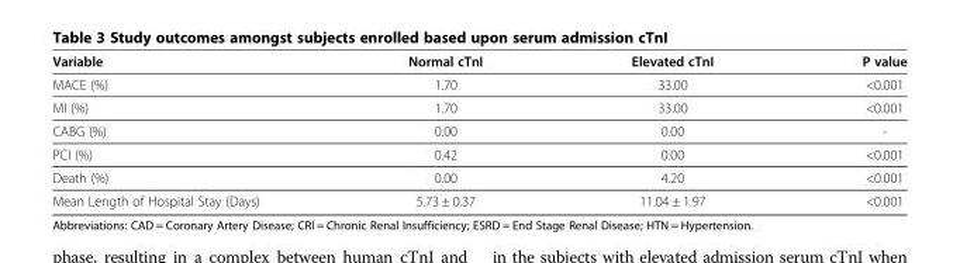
<table><thead><tr><td>Variable</td><td>Normal cTnI</td><td>Elevated cTnI</td><td>P value</td></tr></thead><tbody><tr><td>MACE (%)</td><td>1.70</td><td>33.00</td><td>&lt;0.001</td></tr><tr><td>MI (%)</td><td>1.70</td><td>33.00</td><td>&lt;0.001</td></tr><tr><td>CABG (%)</td><td>0.00</td><td>0.00</td><td>-</td></tr><tr><td>PCI (%)</td><td>0.42</td><td>0.00</td><td>&lt;0.001</td></tr><tr><td>Death (%)</td><td>0.00</td><td>4.20</td><td>&lt;0.001</td></tr><tr><td>Mean Length of Hospital Stay (Days)</td><td>5.73 ± 0.37</td><td>11.04 ± 1.97</td><td>&lt;0.001</td></tr></tbody></table>